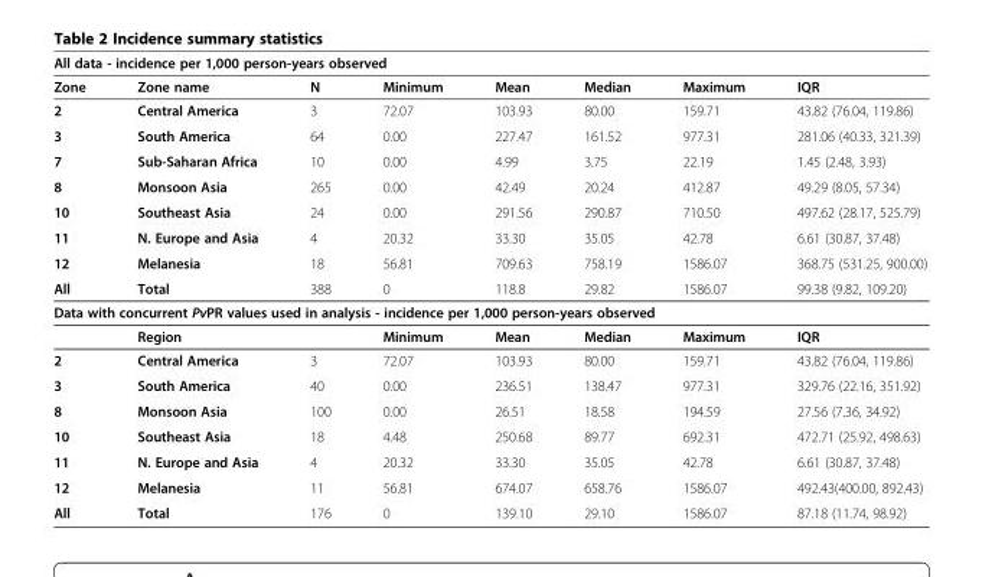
<table><tbody><tr><td colspan="8">All data - incidence per 1,000 person-years observed</td></tr><tr><td>Zone</td><td>Zone name</td><td>N</td><td>Minimum</td><td>Mean</td><td>Median</td><td>Maximum</td><td>IQR</td></tr><tr><td>2</td><td>Central America</td><td>3</td><td>72.07</td><td>103.93</td><td>80.00</td><td>159.71</td><td>43.82 (76.04, 119.86)</td></tr><tr><td>3</td><td>South America</td><td>64</td><td>0.00</td><td>227.47</td><td>161.52</td><td>977.31</td><td>281.06 (40.33, 321.39)</td></tr><tr><td>7</td><td>Sub-Saharan Africa</td><td>10</td><td>0.00</td><td>4.99</td><td>3.75</td><td>22.19</td><td>1.45 (2.48, 3.93)</td></tr><tr><td>8</td><td>Monsoon Asia</td><td>265</td><td>0.00</td><td>42.49</td><td>20.24</td><td>412.87</td><td>49.29 (8.05, 57.34)</td></tr><tr><td>10</td><td>Southeast Asia</td><td>24</td><td>0.00</td><td>291.56</td><td>290.87</td><td>710.50</td><td>497.62 (28.17, 525.79)</td></tr><tr><td>11</td><td>N. Europe and Asia</td><td>4</td><td>20.32</td><td>33.30</td><td>35.05</td><td>42.78</td><td>6.61 (30.87, 37.48)</td></tr><tr><td>12</td><td>Melanesia</td><td>18</td><td>56.81</td><td>709.63</td><td>758.19</td><td>1586.07</td><td>368.75 (531.25, 900.00)</td></tr><tr><td>All</td><td>Total</td><td>388</td><td>0</td><td>118.8</td><td>29.82</td><td>1586.07</td><td>99.38 (9.82, 109.20)</td></tr><tr><td colspan="8">Data with concurrent PvPR values used in analysis - incidence per 1,000 person-years observed</td></tr><tr><td></td><td>Region</td><td></td><td>Minimum</td><td>Mean</td><td>Median</td><td>Maximum</td><td>IQR</td></tr><tr><td>2</td><td>Central America</td><td>3</td><td>72.07</td><td>103.93</td><td>80.00</td><td>159.71</td><td>43.82 (76.04, 119.86)</td></tr><tr><td>3</td><td>South America</td><td>40</td><td>0.00</td><td>236.51</td><td>138.47</td><td>977.31</td><td>329.76 (22.16, 351.92)</td></tr><tr><td>8</td><td>Monsoon Asia</td><td>100</td><td>0.00</td><td>26.51</td><td>18.58</td><td>194.59</td><td>27.56 (7.36, 34.92)</td></tr><tr><td>10</td><td>Southeast Asia</td><td>18</td><td>4.48</td><td>250.68</td><td>89.77</td><td>692.31</td><td>472.71 (25.92, 498.63)</td></tr><tr><td>11</td><td>N. Europe and Asia</td><td>4</td><td>20.32</td><td>33.30</td><td>35.05</td><td>42.78</td><td>6.61 (30.87, 37.48)</td></tr><tr><td>12</td><td>Melanesia</td><td>11</td><td>56.81</td><td>674.07</td><td>658.76</td><td>1586.07</td><td>492.43(400.00, 892.43)</td></tr><tr><td>All</td><td>Total</td><td>176</td><td>0</td><td>139.10</td><td>29.10</td><td>1586.07</td><td>87.18 (11.74, 98.92)</td></tr></tbody></table>